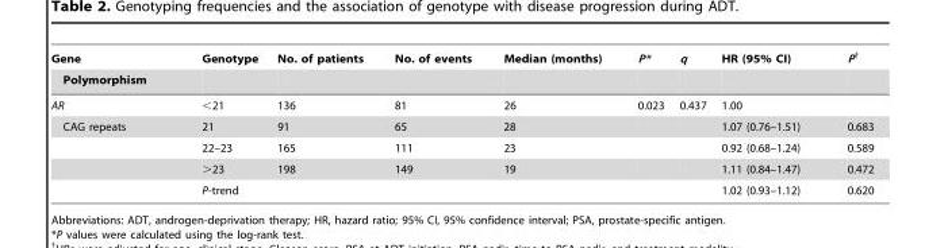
<table><thead><tr><td rowspan="2">Gene Polymorphism</td><td rowspan="2">Genotype</td><td rowspan="2">No. of patients</td><td rowspan="2">No. of events</td><td rowspan="2">Median (months)</td><td rowspan="2">P*</td><td rowspan="2">q</td><td rowspan="2">HR (95% CI)</td><td rowspan="2">P†</td></tr><tr></tr></thead><tbody><tr><td>AR</td><td>&lt;21</td><td>136</td><td>81</td><td>26</td><td>0.023</td><td>0.437</td><td>1.00</td><td></td></tr><tr><td rowspan="4">CAG repeats</td><td>21</td><td>91</td><td>65</td><td>28</td><td></td><td></td><td>1.07 (0.76–1.51)</td><td>0.683</td></tr><tr><td>22–23</td><td>165</td><td>111</td><td>23</td><td></td><td></td><td>0.92 (0.68–1.24)</td><td>0.589</td></tr><tr><td>&gt;23</td><td>198</td><td>149</td><td>19</td><td></td><td></td><td>1.11 (0.84–1.47)</td><td>0.472</td></tr><tr><td>P-trend</td><td></td><td></td><td></td><td></td><td></td><td>1.02 (0.93–1.12)</td><td>0.620</td></tr></tbody></table>